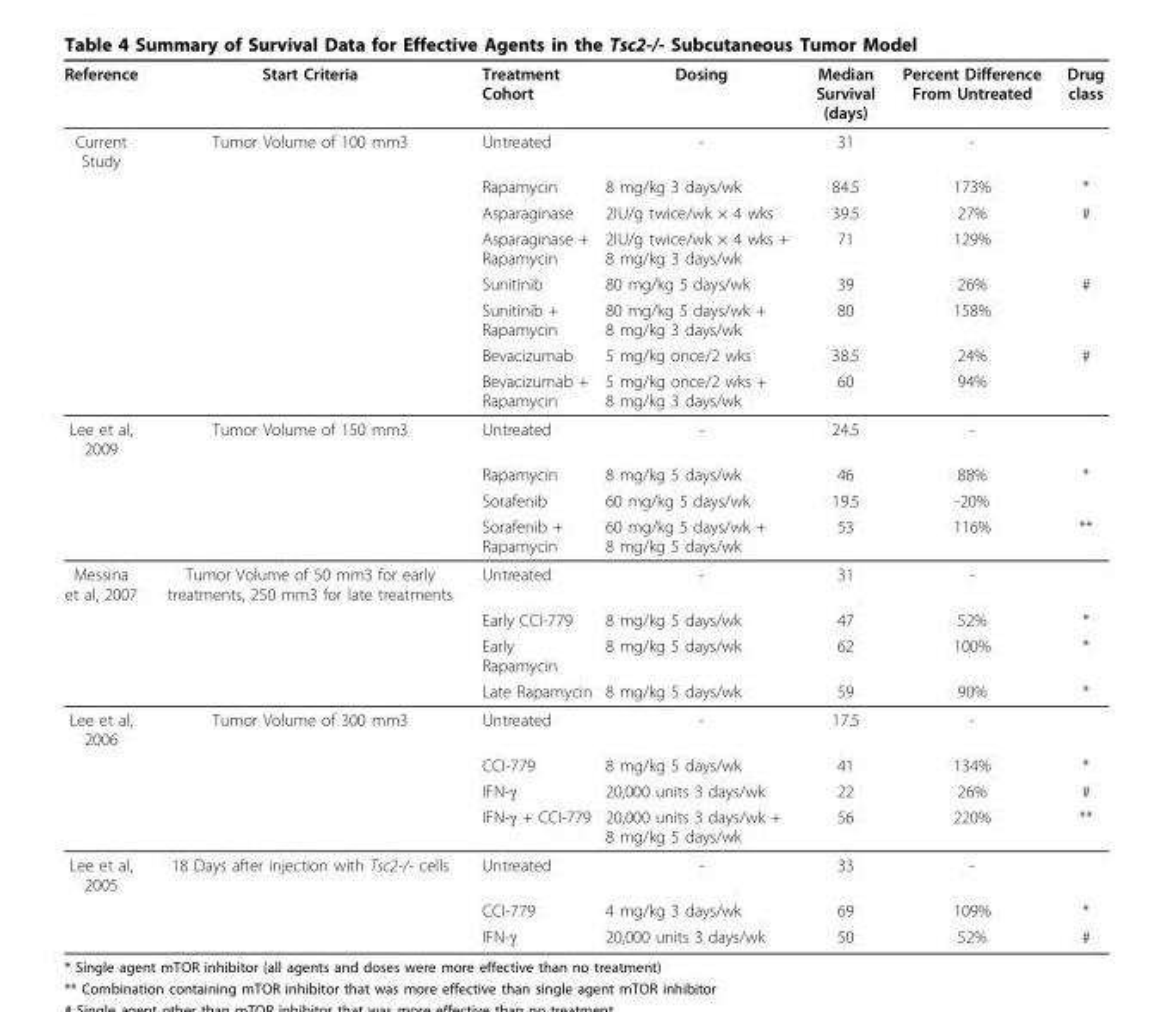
<table><thead><tr><td>Reference</td><td>Start Criteria</td><td>Treatment Cohort</td><td>Dosing</td><td>Median Survival (days)</td><td>Percent Difference From Untreated</td><td>Drug class</td></tr></thead><tbody><tr><td rowspan="8">Current Study</td><td>Tumor Volume of 100 mm3</td><td>Untreated</td><td>-</td><td>31</td><td>-</td><td></td></tr><tr><td></td><td>Rapamycin</td><td>8 mg/kg 3 days/wk</td><td>84.5</td><td>173%</td><td>*</td></tr><tr><td></td><td>Asparaginase</td><td>2IU/g twice/wk × 4 wks</td><td>39.5</td><td>27%</td><td>#</td></tr><tr><td></td><td>Asparaginase + Rapamycin</td><td>2IU/g twice/wk × 4 wks + 8 mg/kg 3 days/wk</td><td>71</td><td>129%</td><td></td></tr><tr><td></td><td>Sunitinib</td><td>80 mg/kg 5 days/wk</td><td>39</td><td>26%</td><td>#</td></tr><tr><td></td><td>Sunitinib + Rapamycin</td><td>80 mg/kg 5 days/wk + 8 mg/kg 3 days/wk</td><td>80</td><td>158%</td><td></td></tr><tr><td></td><td>Bevacizumab</td><td>5 mg/kg once/2 wks</td><td>38.5</td><td>24%</td><td>#</td></tr><tr><td></td><td>Bevacizumab + Rapamycin</td><td>5 mg/kg once/2 wks + 8 mg/kg 3 days/wk</td><td>60</td><td>94%</td><td></td></tr><tr><td rowspan="4">Lee et al, 2009</td><td>Tumor Volume of 150 mm3</td><td>Untreated</td><td>-</td><td>24.5</td><td>-</td><td></td></tr><tr><td></td><td>Rapamycin</td><td>8 mg/kg 5 days/wk</td><td>46</td><td>88%</td><td>*</td></tr><tr><td></td><td>Sorafenib</td><td>60 mg/kg 5 days/wk</td><td>19.5</td><td>-20%</td><td></td></tr><tr><td></td><td>Sorafenib + Rapamycin</td><td>60 mg/kg 5 days/wk + 8 mg/kg 5 days/wk</td><td>53</td><td>116%</td><td>**</td></tr><tr><td rowspan="4">Messina et al, 2007</td><td>Tumor Volume of 50 mm3 for early treatments, 250 mm3 for late treatments</td><td>Untreated</td><td>-</td><td>31</td><td>-</td><td></td></tr><tr><td></td><td>Early CCI-779</td><td>8 mg/kg 5 days/wk</td><td>47</td><td>52%</td><td>*</td></tr><tr><td></td><td>Early Rapamycin</td><td>8 mg/kg 5 days/wk</td><td>62</td><td>100%</td><td>*</td></tr><tr><td></td><td>Late Rapamycin</td><td>8 mg/kg 5 days/wk</td><td>59</td><td>90%</td><td>*</td></tr><tr><td rowspan="4">Lee et al, 2006</td><td>Tumor Volume of 300 mm3</td><td>Untreated</td><td>-</td><td>17.5</td><td>-</td><td></td></tr><tr><td></td><td>CCI-779</td><td>8 mg/kg 5 days/wk</td><td>41</td><td>134%</td><td>*</td></tr><tr><td></td><td>IFN-γ</td><td>20,000 units 3 days/wk</td><td>22</td><td>26%</td><td>#</td></tr><tr><td></td><td>IFN-γ + CCI-779</td><td>20,000 units 3 days/wk + 8 mg/kg 5 days/wk</td><td>56</td><td>220%</td><td>**</td></tr><tr><td rowspan="3">Lee et al, 2005</td><td>18 Days after injection with Tsc2-/- cells</td><td>Untreated</td><td>-</td><td>33</td><td>-</td><td></td></tr><tr><td></td><td>CCI-779</td><td>4 mg/kg 3 days/wk</td><td>69</td><td>109%</td><td>*</td></tr><tr><td></td><td>IFN-γ</td><td>20,000 units 3 days/wk</td><td>50</td><td>52%</td><td>#</td></tr></tbody></table>